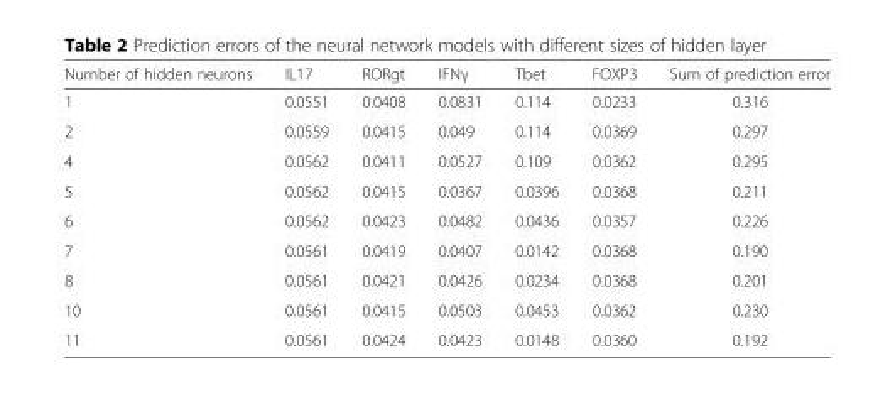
<table><thead><tr><td>Number of hidden neurons</td><td>IL17</td><td>RORgt</td><td>IFNγ</td><td>Tbet</td><td>FOXP3</td><td>Sum of prediction error</td></tr></thead><tbody><tr><td>1</td><td>0.0551</td><td>0.0408</td><td>0.0831</td><td>0.114</td><td>0.0233</td><td>0.316</td></tr><tr><td>2</td><td>0.0559</td><td>0.0415</td><td>0.049</td><td>0.114</td><td>0.0369</td><td>0.297</td></tr><tr><td>4</td><td>0.0562</td><td>0.0411</td><td>0.0527</td><td>0.109</td><td>0.0362</td><td>0.295</td></tr><tr><td>5</td><td>0.0562</td><td>0.0415</td><td>0.0367</td><td>0.0396</td><td>0.0368</td><td>0.211</td></tr><tr><td>6</td><td>0.0562</td><td>0.0423</td><td>0.0482</td><td>0.0436</td><td>0.0357</td><td>0.226</td></tr><tr><td>7</td><td>0.0561</td><td>0.0419</td><td>0.0407</td><td>0.0142</td><td>0.0368</td><td>0.190</td></tr><tr><td>8</td><td>0.0561</td><td>0.0421</td><td>0.0426</td><td>0.0234</td><td>0.0368</td><td>0.201</td></tr><tr><td>10</td><td>0.0561</td><td>0.0415</td><td>0.0503</td><td>0.0453</td><td>0.0362</td><td>0.230</td></tr><tr><td>11</td><td>0.0561</td><td>0.0424</td><td>0.0423</td><td>0.0148</td><td>0.0360</td><td>0.192</td></tr></tbody></table>